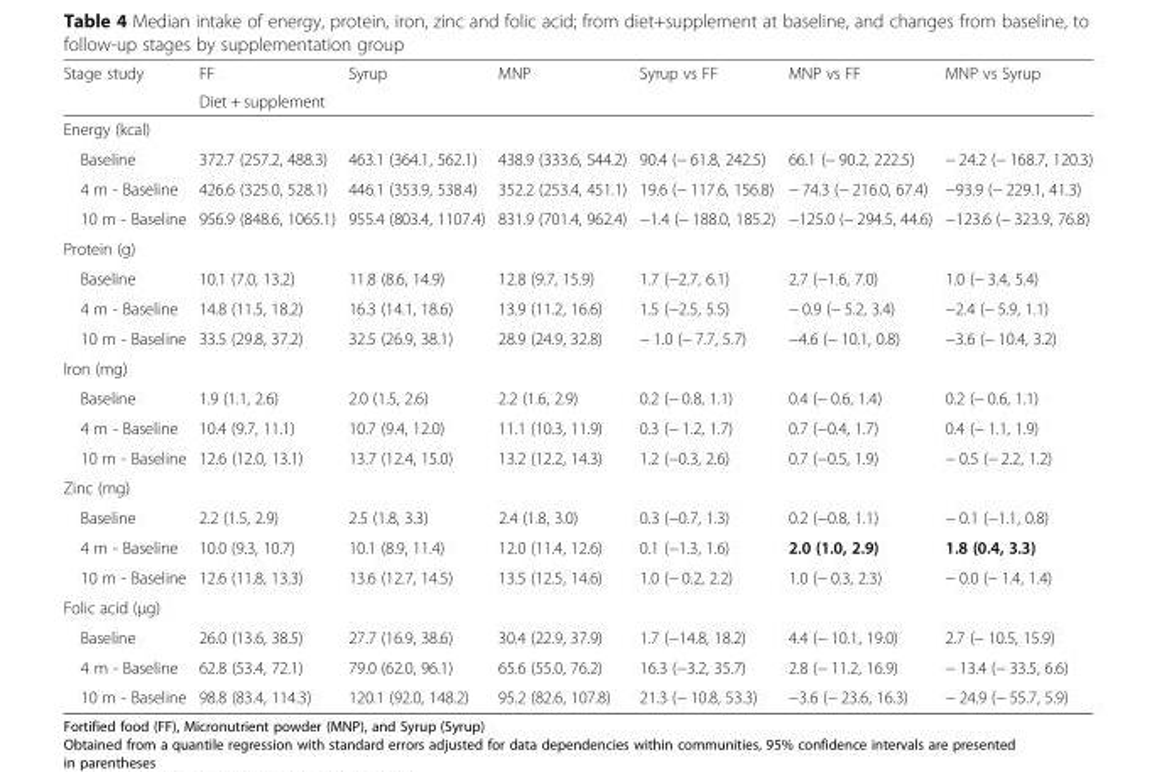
<table><thead><tr><td rowspan="2">Stage study</td><td>FF</td><td>Syrup</td><td>MNP</td><td>Syrup vs FF</td><td>MNP vs FF</td><td>MNP vs Syrup</td></tr><tr><td colspan="6">Diet + supplement</td></tr></thead><tbody><tr><td colspan="7">Energy (kcal)</td></tr><tr><td>Baseline</td><td>372.7 (257.2, 488.3)</td><td>463.1 (364.1, 562.1)</td><td>438.9 (333.6, 544.2)</td><td>90.4 (− 61.8, 242.5)</td><td>66.1 (− 90.2, 222.5)</td><td>− 24.2 (− 168.7, 120.3)</td></tr><tr><td>4 m - Baseline</td><td>426.6 (325.0, 528.1)</td><td>446.1 (353.9, 538.4)</td><td>352.2 (253.4, 451.1)</td><td>19.6 (− 117.6, 156.8)</td><td>− 74.3 (− 216.0, 67.4)</td><td>−93.9 (− 229.1, 41.3)</td></tr><tr><td>10 m - Baseline</td><td>956.9 (848.6, 1065.1)</td><td>955.4 (803.4, 1107.4)</td><td>831.9 (701.4, 962.4)</td><td>−1.4 (− 188.0, 185.2)</td><td>−125.0 (− 294.5, 44.6)</td><td>−123.6 (− 323.9, 76.8)</td></tr><tr><td colspan="7">Protein (g)</td></tr><tr><td>Baseline</td><td>10.1 (7.0, 13.2)</td><td>11.8 (8.6, 14.9)</td><td>12.8 (9.7, 15.9)</td><td>1.7 (−2.7, 6.1)</td><td>2.7 (−1.6, 7.0)</td><td>1.0 (− 3.4, 5.4)</td></tr><tr><td>4 m - Baseline</td><td>14.8 (11.5, 18.2)</td><td>16.3 (14.1, 18.6)</td><td>13.9 (11.2, 16.6)</td><td>1.5 (−2.5, 5.5)</td><td>− 0.9 (− 5.2, 3.4)</td><td>−2.4 (− 5.9, 1.1)</td></tr><tr><td>10 m - Baseline</td><td>33.5 (29.8, 37.2)</td><td>32.5 (26.9, 38.1)</td><td>28.9 (24.9, 32.8)</td><td>− 1.0 (− 7.7, 5.7)</td><td>−4.6 (− 10.1, 0.8)</td><td>−3.6 (− 10.4, 3.2)</td></tr><tr><td colspan="7">Iron (mg)</td></tr><tr><td>Baseline</td><td>1.9 (1.1, 2.6)</td><td>2.0 (1.5, 2.6)</td><td>2.2 (1.6, 2.9)</td><td>0.2 (− 0.8, 1.1)</td><td>0.4 (− 0.6, 1.4)</td><td>0.2 (− 0.6, 1.1)</td></tr><tr><td>4 m - Baseline</td><td>10.4 (9.7, 11.1)</td><td>10.7 (9.4, 12.0)</td><td>11.1 (10.3, 11.9)</td><td>0.3 (− 1.2, 1.7)</td><td>0.7 (−0.4, 1.7)</td><td>0.4 (− 1.1, 1.9)</td></tr><tr><td>10 m - Baseline</td><td>12.6 (12.0, 13.1)</td><td>13.7 (12.4, 15.0)</td><td>13.2 (12.2, 14.3)</td><td>1.2 (−0.3, 2.6)</td><td>0.7 (−0.5, 1.9)</td><td>− 0.5 (− 2.2, 1.2)</td></tr><tr><td colspan="7">Zinc (mg)</td></tr><tr><td>Baseline</td><td>2.2 (1.5, 2.9)</td><td>2.5 (1.8, 3.3)</td><td>2.4 (1.8, 3.0)</td><td>0.3 (−0.7, 1.3)</td><td>0.2 (−0.8, 1.1)</td><td>− 0.1 (−1.1, 0.8)</td></tr><tr><td>4 m - Baseline</td><td>10.0 (9.3, 10.7)</td><td>10.1 (8.9, 11.4)</td><td>12.0 (11.4, 12.6)</td><td>0.1 (−1.3, 1.6)</td><td>2.0 (1.0, 2.9)</td><td>1.8 (0.4, 3.3)</td></tr><tr><td>10 m - Baseline</td><td>12.6 (11.8, 13.3)</td><td>13.6 (12.7, 14.5)</td><td>13.5 (12.5, 14.6)</td><td>1.0 (− 0.2, 2.2)</td><td>1.0 (− 0.3, 2.3)</td><td>− 0.0 (− 1.4, 1.4)</td></tr><tr><td colspan="7">Folic acid (μg)</td></tr><tr><td>Baseline</td><td>26.0 (13.6, 38.5)</td><td>27.7 (16.9, 38.6)</td><td>30.4 (22.9, 37.9)</td><td>1.7 (−14.8, 18.2)</td><td>4.4 (− 10.1, 19.0)</td><td>2.7 (− 10.5, 15.9)</td></tr><tr><td>4 m - Baseline</td><td>62.8 (53.4, 72.1)</td><td>79.0 (62.0, 96.1)</td><td>65.6 (55.0, 76.2)</td><td>16.3 (−3.2, 35.7)</td><td>2.8 (− 11.2, 16.9)</td><td>− 13.4 (− 33.5, 6.6)</td></tr><tr><td>10 m - Baseline</td><td>98.8 (83.4, 114.3)</td><td>120.1 (92.0, 148.2)</td><td>95.2 (82.6, 107.8)</td><td>21.3 (− 10.8, 53.3)</td><td>−3.6 (− 23.6, 16.3)</td><td>− 24.9 (− 55.7, 5.9)</td></tr></tbody></table>